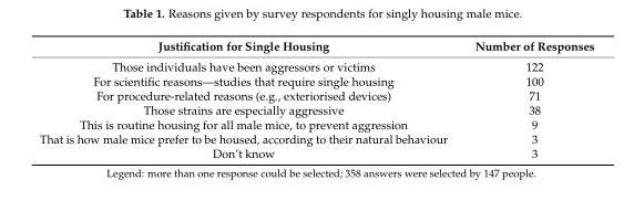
<table><thead><tr><td>Justification for Single Housing</td><td>Number of Responses</td></tr></thead><tbody><tr><td>Those individuals have been aggressors or victims</td><td>122</td></tr><tr><td>For scientific reasons—studies that require single housing</td><td>100</td></tr><tr><td>For procedure-related reasons (e.g., exteriorised devices)</td><td>71</td></tr><tr><td>Those strains are especially aggressive</td><td>38</td></tr><tr><td>This is routine housing for all male mice, to prevent aggression</td><td>9</td></tr><tr><td>That is how male mice prefer to be housed, according to their natural behaviour</td><td>3</td></tr><tr><td>Don’t know</td><td>3</td></tr></tbody></table>